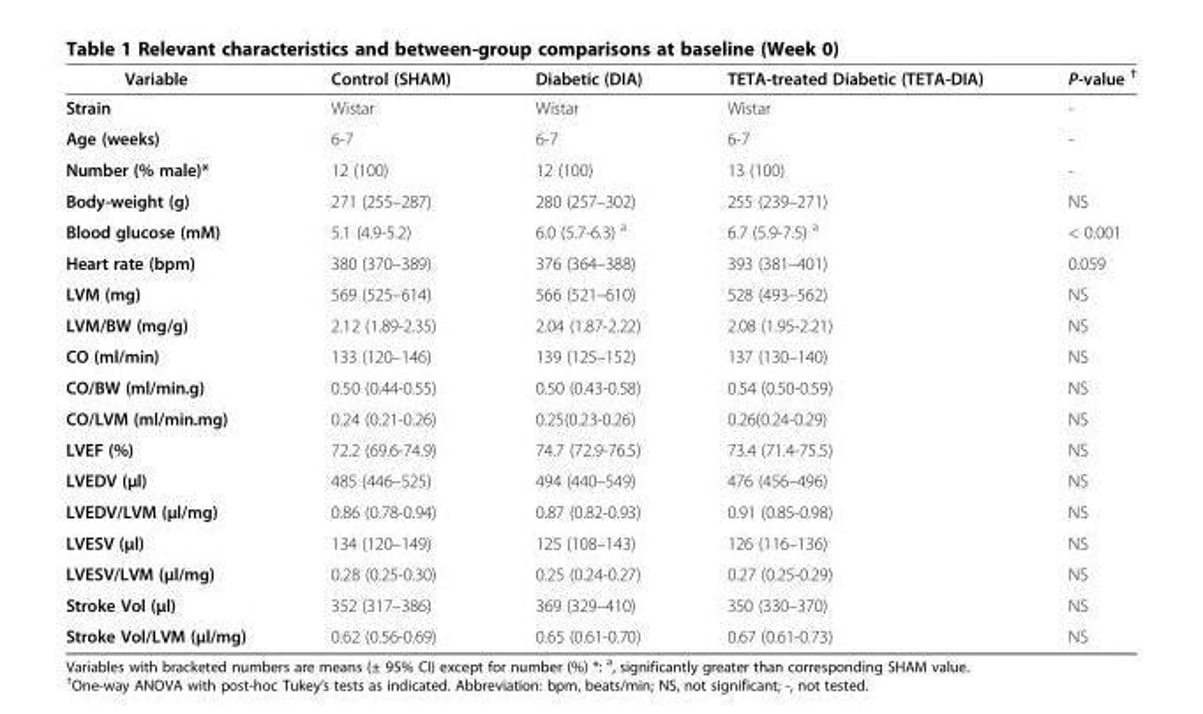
<table><thead><tr><td>Variable</td><td>Control (SHAM)</td><td>Diabetic (DIA)</td><td>TETA-treated Diabetic (TETA-DIA)</td><td>P-value <sup>†</sup></td></tr></thead><tbody><tr><td>Strain</td><td>Wistar</td><td>Wistar</td><td>Wistar</td><td>-</td></tr><tr><td>Age (weeks)</td><td>6-7</td><td>6-7</td><td>6-7</td><td>-</td></tr><tr><td>Number (% male)*</td><td>12 (100)</td><td>12 (100)</td><td>13 (100)</td><td>-</td></tr><tr><td>Body-weight (g)</td><td>271 (255–287)</td><td>280 (257–302)</td><td>255 (239–271)</td><td>NS</td></tr><tr><td>Blood glucose (mM)</td><td>5.1 (4.9-5.2)</td><td>6.0 (5.7-6.3) <sup>a</sup></td><td>6.7 (5.9-7.5) <sup>a</sup></td><td>&lt; 0.001</td></tr><tr><td>Heart rate (bpm)</td><td>380 (370–389)</td><td>376 (364–388)</td><td>393 (381–401)</td><td>0.059</td></tr><tr><td>LVM (mg)</td><td>569 (525–614)</td><td>566 (521–610)</td><td>528 (493–562)</td><td>NS</td></tr><tr><td>LVM/BW (mg/g)</td><td>2.12 (1.89-2.35)</td><td>2.04 (1.87-2.22)</td><td>2.08 (1.95-2.21)</td><td>NS</td></tr><tr><td>CO (ml/min)</td><td>133 (120–146)</td><td>139 (125–152)</td><td>137 (130–140)</td><td>NS</td></tr><tr><td>CO/BW (ml/min.g)</td><td>0.50 (0.44-0.55)</td><td>0.50 (0.43-0.58)</td><td>0.54 (0.50-0.59)</td><td>NS</td></tr><tr><td>CO/LVM (ml/min.mg)</td><td>0.24 (0.21-0.26)</td><td>0.25(0.23-0.26)</td><td>0.26(0.24-0.29)</td><td>NS</td></tr><tr><td>LVEF (%)</td><td>72.2 (69.6-74.9)</td><td>74.7 (72.9-76.5)</td><td>73.4 (71.4-75.5)</td><td>NS</td></tr><tr><td>LVEDV (μl)</td><td>485 (446–525)</td><td>494 (440–549)</td><td>476 (456–496)</td><td>NS</td></tr><tr><td>LVEDV/LVM (μl/mg)</td><td>0.86 (0.78-0.94)</td><td>0.87 (0.82-0.93)</td><td>0.91 (0.85-0.98)</td><td>NS</td></tr><tr><td>LVESV (μl)</td><td>134 (120–149)</td><td>125 (108–143)</td><td>126 (116–136)</td><td>NS</td></tr><tr><td>LVESV/LVM (μl/mg)</td><td>0.28 (0.25-0.30)</td><td>0.25 (0.24-0.27)</td><td>0.27 (0.25-0.29)</td><td>NS</td></tr><tr><td>Stroke Vol (μl)</td><td>352 (317–386)</td><td>369 (329–410)</td><td>350 (330–370)</td><td>NS</td></tr><tr><td>Stroke Vol/LVM (μl/mg)</td><td>0.62 (0.56-0.69)</td><td>0.65 (0.61-0.70)</td><td>0.67 (0.61-0.73)</td><td>NS</td></tr></tbody></table>